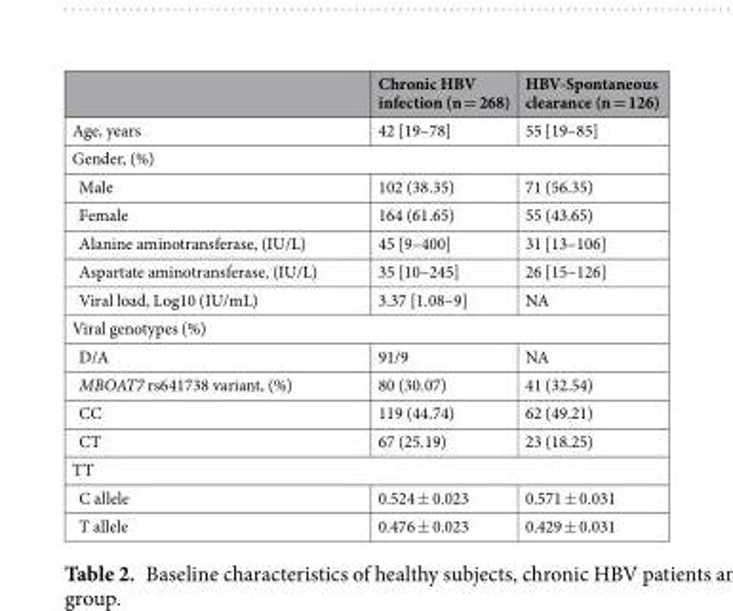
<table><thead><tr><td></td><td>Chronic HBV infection (n = 268)</td><td>HBV-Spontaneous clearance (n = 126)</td></tr></thead><tbody><tr><td>Age, years</td><td>42 [19–78]</td><td>55 [19–85]</td></tr><tr><td colspan="3">Gender, (%)</td></tr><tr><td>Male</td><td>102 (38.35)</td><td>71 (56.35)</td></tr><tr><td>Female</td><td>164 (61.65)</td><td>55 (43.65)</td></tr><tr><td>Alanine aminotransferase, (IU/L)</td><td>45 [9–400]</td><td>31 [13–106]</td></tr><tr><td>Aspartate aminotransferase, (IU/L)</td><td>35 [10–245]</td><td>26 [15–126]</td></tr><tr><td>Viral load, Log10 (IU/mL)</td><td>3.37 [1.08–9]</td><td>NA</td></tr><tr><td colspan="3">Viral genotypes (%)</td></tr><tr><td>D/A</td><td>91/9</td><td>NA</td></tr><tr><td>MBOAT7 rs641738 variant, (%)</td><td>80 (30.07)</td><td>41 (32.54)</td></tr><tr><td>CC</td><td>119 (44.74)</td><td>62 (49.21)</td></tr><tr><td>CT</td><td>67 (25.19)</td><td>23 (18.25)</td></tr><tr><td colspan="3">TT</td></tr><tr><td>C allele</td><td>0.524 ± 0.023</td><td>0.571 ± 0.031</td></tr><tr><td>T allele</td><td>0.476 ± 0.023</td><td>0.429 ± 0.031</td></tr></tbody></table>